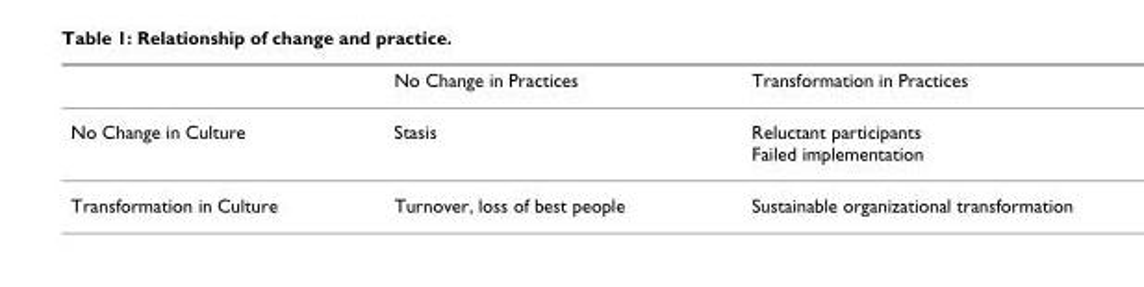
<table><thead><tr><td></td><td>No Change in Practices</td><td>Transformation in Practices</td></tr></thead><tbody><tr><td>No Change in Culture</td><td>Stasis</td><td>Reluctant participants Failed implementation</td></tr><tr><td>Transformation in Culture</td><td>Turnover, loss of best people</td><td>Sustainable organizational transformation</td></tr></tbody></table>